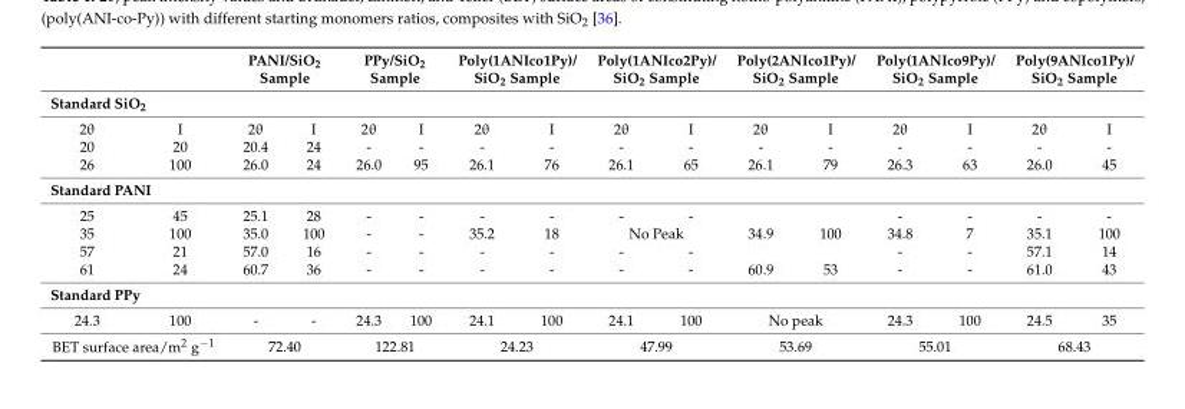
<table><thead><tr><td></td><td></td><td colspan="2">PANI/SiO<sub>2</sub> Sample</td><td colspan="2">PPy/SiO<sub>2</sub> Sample</td><td colspan="2">Poly(1ANIco1Py)/ SiO<sub>2</sub> Sample</td><td colspan="2">Poly(1ANIco2Py)/ SiO<sub>2</sub> Sample</td><td colspan="2">Poly(2ANIco1Py)/ SiO<sub>2</sub> Sample</td><td colspan="2">Poly(1ANIco9Py)/ SiO<sub>2</sub> Sample</td><td colspan="2">Poly(9ANIco1Py)/ SiO<sub>2</sub> Sample</td></tr><tr><td colspan="16">Standard SiO<sub>2</sub></td></tr><tr><td>2θ</td><td>I</td><td>2θ</td><td>I</td><td>2θ</td><td>I</td><td>2θ</td><td>I</td><td>2θ</td><td>I</td><td>2θ</td><td>I</td><td>2θ</td><td>I</td><td>2θ</td><td>I</td></tr></thead><tbody><tr><td>20</td><td>20</td><td>20.4</td><td>24</td><td>-</td><td>-</td><td>-</td><td>-</td><td>-</td><td>-</td><td>-</td><td>-</td><td>-</td><td>-</td><td>-</td><td>-</td></tr><tr><td>26</td><td>100</td><td>26.0</td><td>24</td><td>26.0</td><td>95</td><td>26.1</td><td>76</td><td>26.1</td><td>65</td><td>26.1</td><td>79</td><td>26.3</td><td>63</td><td>26.0</td><td>45</td></tr><tr><td colspan="16">Standard PANI</td></tr><tr><td>25</td><td>45</td><td>25.1</td><td>28</td><td>-</td><td>-</td><td>-</td><td>-</td><td>-</td><td>-</td><td></td><td></td><td>-</td><td>-</td><td>-</td><td>-</td></tr><tr><td>35</td><td>100</td><td>35.0</td><td>100</td><td>-</td><td>-</td><td>35.2</td><td>18</td><td colspan="2">No Peak</td><td>34.9</td><td>100</td><td>34.8</td><td>7</td><td>35.1</td><td>100</td></tr><tr><td>57</td><td>21</td><td>57.0</td><td>16</td><td>-</td><td>-</td><td>-</td><td>-</td><td>-</td><td>-</td><td></td><td></td><td>-</td><td>-</td><td>57.1</td><td>14</td></tr><tr><td>61</td><td>24</td><td>60.7</td><td>36</td><td>-</td><td>-</td><td>-</td><td>-</td><td>-</td><td>-</td><td>60.9</td><td>53</td><td>-</td><td>-</td><td>61.0</td><td>43</td></tr><tr><td colspan="16">Standard PPy</td></tr><tr><td>24.3</td><td>100</td><td>-</td><td>-</td><td>24.3</td><td>100</td><td>24.1</td><td>100</td><td>24.1</td><td>100</td><td colspan="2">No peak</td><td>24.3</td><td>100</td><td>24.5</td><td>35</td></tr><tr><td colspan="2">BET surface area/m<sup>2</sup> g<sup>−1</sup></td><td colspan="2">72.40</td><td colspan="2">122.81</td><td colspan="2">24.23</td><td colspan="2">47.99</td><td colspan="2">53.69</td><td colspan="2">55.01</td><td colspan="2">68.43</td></tr></tbody></table>